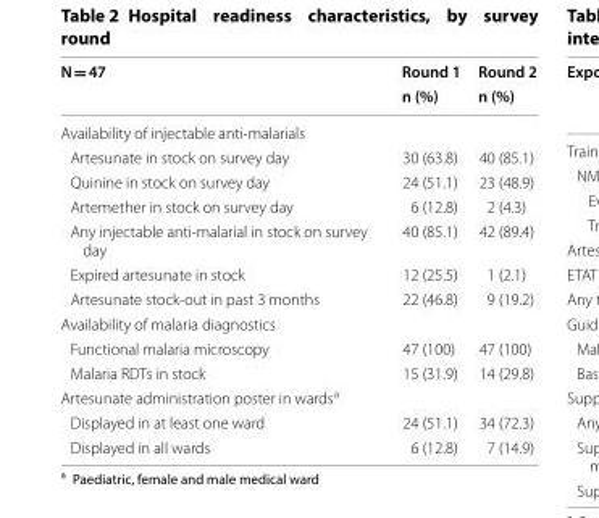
<table><thead><tr><td rowspan="2">N = 47</td><td rowspan="2">Round 1 n (%)</td><td rowspan="2">Round 2 n (%)</td></tr><tr></tr></thead><tbody><tr><td colspan="3">Availability of injectable anti-malarials</td></tr><tr><td>Artesunate in stock on survey day</td><td>30 (63.8)</td><td>40 (85.1)</td></tr><tr><td>Quinine in stock on survey day</td><td>24 (51.1)</td><td>23 (48.9)</td></tr><tr><td>Artemether in stock on survey day</td><td>6 (12.8)</td><td>2 (4.3)</td></tr><tr><td>Any injectable anti-malarial in stock on survey day</td><td>40 (85.1)</td><td>42 (89.4)</td></tr><tr><td>Expired artesunate in stock</td><td>12 (25.5)</td><td>1 (2.1)</td></tr><tr><td>Artesunate stock-out in past 3 months</td><td>22 (46.8)</td><td>9 (19.2)</td></tr><tr><td colspan="3">Availability of malaria diagnostics</td></tr><tr><td>Functional malaria microscopy</td><td>47 (100)</td><td>47 (100)</td></tr><tr><td>Malaria RDTs in stock</td><td>15 (31.9)</td><td>14 (29.8)</td></tr><tr><td colspan="3">Artesunate administration poster in wards<sup>a</sup></td></tr><tr><td>Displayed in at least one ward</td><td>24 (51.1)</td><td>34 (72.3)</td></tr><tr><td>Displayed in all wards</td><td>6 (12.8)</td><td>7 (14.9)</td></tr></tbody></table>